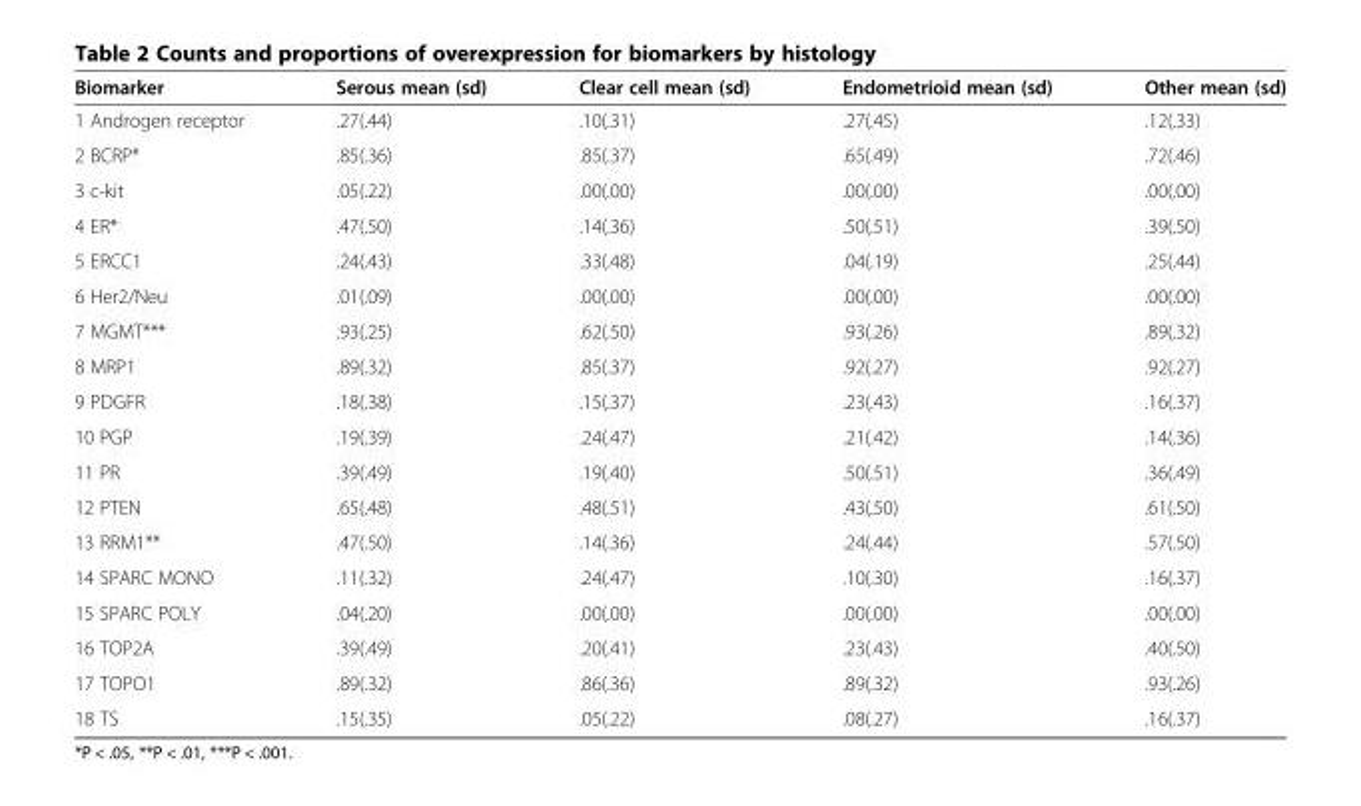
<table><thead><tr><td>Biomarker</td><td>Serous mean (sd)</td><td>Clear cell mean (sd)</td><td>Endometrioid mean (sd)</td><td>Other mean (sd)</td></tr></thead><tbody><tr><td>1 Androgen receptor</td><td>.27(.44)</td><td>.10(.31)</td><td>.27(.45)</td><td>.12(.33)</td></tr><tr><td>2 BCRP*</td><td>.85(.36)</td><td>.85(.37)</td><td>.65(.49)</td><td>.72(.46)</td></tr><tr><td>3 c-kit</td><td>.05(.22)</td><td>.00(.00)</td><td>.00(.00)</td><td>.00(.00)</td></tr><tr><td>4 ER*</td><td>.47(.50)</td><td>.14(.36)</td><td>.50(.51)</td><td>.39(.50)</td></tr><tr><td>5 ERCC1</td><td>.24(.43)</td><td>.33(.48)</td><td>.04(.19)</td><td>.25(.44)</td></tr><tr><td>6 Her2/Neu</td><td>.01(.09)</td><td>.00(.00)</td><td>.00(.00)</td><td>.00(.00)</td></tr><tr><td>7 MGMT***</td><td>.93(.25)</td><td>.62(.50)</td><td>.93(.26)</td><td>.89(.32)</td></tr><tr><td>8 MRP1</td><td>.89(.32)</td><td>.85(.37)</td><td>.92(.27)</td><td>.92(.27)</td></tr><tr><td>9 PDGFR</td><td>.18(.38)</td><td>.15(.37)</td><td>.23(.43)</td><td>.16(.37)</td></tr><tr><td>10 PGP</td><td>.19(.39)</td><td>.24(.47)</td><td>.21(.42)</td><td>.14(.36)</td></tr><tr><td>11 PR</td><td>.39(.49)</td><td>.19(.40)</td><td>.50(.51)</td><td>.36(.49)</td></tr><tr><td>12 PTEN</td><td>.65(.48)</td><td>.48(.51)</td><td>.43(.50)</td><td>.61(.50)</td></tr><tr><td>13 RRM1**</td><td>.47(.50)</td><td>.14(.36)</td><td>.24(.44)</td><td>.57(.50)</td></tr><tr><td>14 SPARC MONO</td><td>.11(.32)</td><td>.24(.47)</td><td>.10(.30)</td><td>.16(.37)</td></tr><tr><td>15 SPARC POLY</td><td>.04(.20)</td><td>.00(.00)</td><td>.00(.00)</td><td>.00(.00)</td></tr><tr><td>16 TOP2A</td><td>.39(.49)</td><td>.20(.41)</td><td>.23(.43)</td><td>.40(.50)</td></tr><tr><td>17 TOPO1</td><td>.89(.32)</td><td>.86(.36)</td><td>.89(.32)</td><td>.93(.26)</td></tr><tr><td>18 TS</td><td>.15(.35)</td><td>.05(.22)</td><td>.08(.27)</td><td>.16(.37)</td></tr></tbody></table>